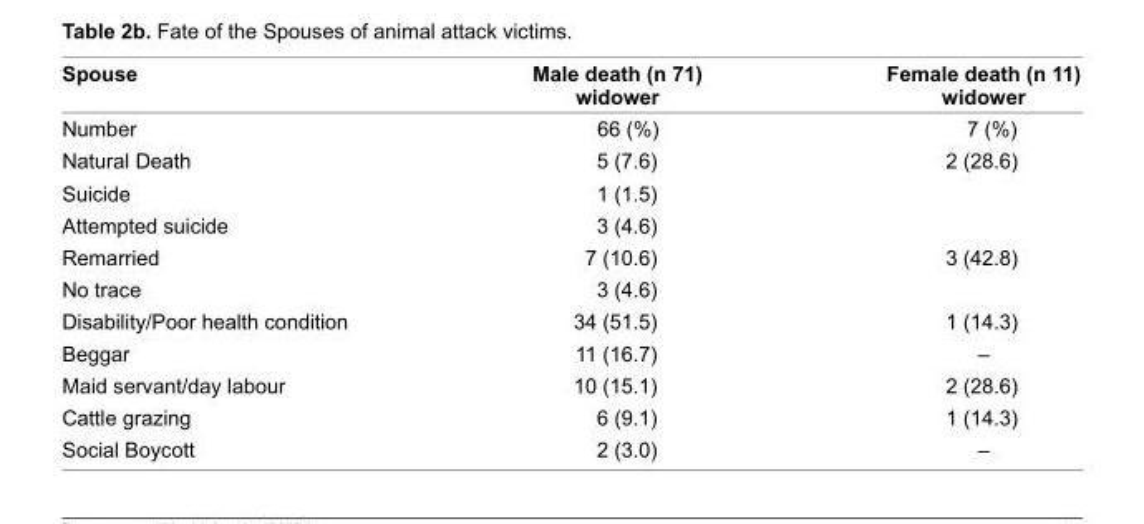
<table><thead><tr><td>Spouse</td><td>Male death (n 71) widower</td><td>Female death (n 11) widower</td></tr></thead><tbody><tr><td>Number</td><td>66 (%)</td><td>7 (%)</td></tr><tr><td>Natural Death</td><td>5 (7.6)</td><td>2 (28.6)</td></tr><tr><td>Suicide</td><td>1 (1.5)</td><td></td></tr><tr><td>Attempted suicide</td><td>3 (4.6)</td><td></td></tr><tr><td>Remarried</td><td>7 (10.6)</td><td>3 (42.8)</td></tr><tr><td>No trace</td><td>3 (4.6)</td><td></td></tr><tr><td>Disability/Poor health condition</td><td>34 (51.5)</td><td>1 (14.3)</td></tr><tr><td>Beggar</td><td>11 (16.7)</td><td>–</td></tr><tr><td>Maid servant/day labour</td><td>10 (15.1)</td><td>2 (28.6)</td></tr><tr><td>Cattle grazing</td><td>6 (9.1)</td><td>1 (14.3)</td></tr><tr><td>Social Boycott</td><td>2 (3.0)</td><td>–</td></tr></tbody></table>